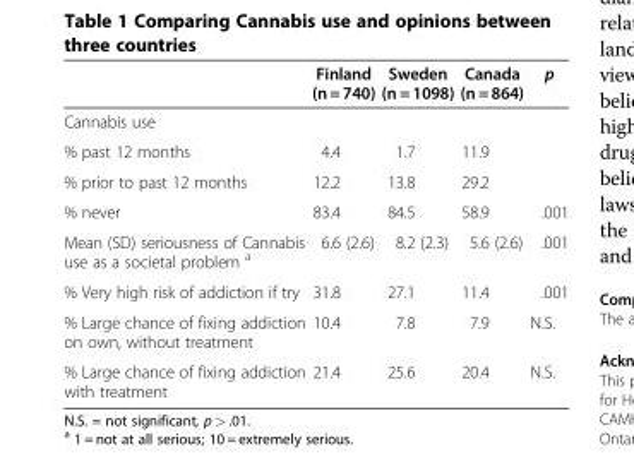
<table><thead><tr><td></td><td>Finland (n = 740)</td><td>Sweden (n = 1098)</td><td>Canada (n = 864)</td><td>p</td></tr></thead><tbody><tr><td colspan="5">Cannabis use</td></tr><tr><td>% past 12 months</td><td>4.4</td><td>1.7</td><td>11.9</td><td></td></tr><tr><td>% prior to past 12 months</td><td>12.2</td><td>13.8</td><td>29.2</td><td></td></tr><tr><td>% never</td><td>83.4</td><td>84.5</td><td>58.9</td><td>.001</td></tr><tr><td>Mean (SD) seriousness of Cannabis use as a societal problem <sup>a</sup></td><td>6.6 (2.6)</td><td>8.2 (2.3)</td><td>5.6 (2.6)</td><td>.001</td></tr><tr><td>% Very high risk of addiction if try</td><td>31.8</td><td>27.1</td><td>11.4</td><td>.001</td></tr><tr><td>% Large chance of fixing addiction on own, without treatment</td><td>10.4</td><td>7.8</td><td>7.9</td><td>N.S.</td></tr><tr><td>% Large chance of fixing addiction with treatment</td><td>21.4</td><td>25.6</td><td>20.4</td><td>N.S.</td></tr></tbody></table>